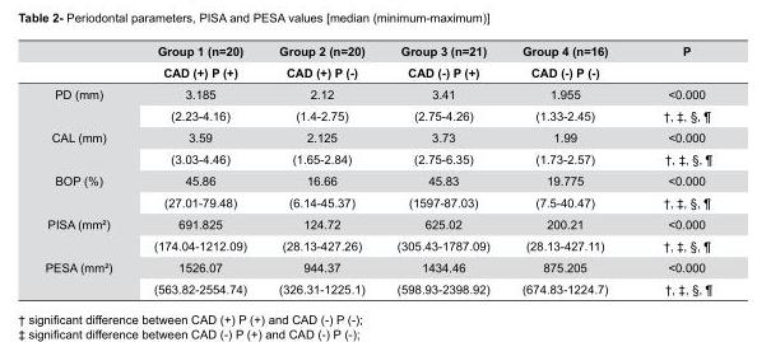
<table><thead><tr><td rowspan="2"></td><td rowspan="2">Group 1 (n=20) CAD (+) P (+)</td><td rowspan="2">Group 2 (n=20) CAD (+) P (-)</td><td rowspan="2">Group 3 (n=21) CAD (-) P (+)</td><td rowspan="2">Group 4 (n=16) CAD (-) P (-)</td><td rowspan="2">P</td></tr><tr></tr></thead><tbody><tr><td rowspan="2">PD (mm)</td><td>3.185</td><td>2.12</td><td>3.41</td><td>1.955</td><td>&lt;0.000</td></tr><tr><td>(2.23-4.16)</td><td>(1.4-2.75)</td><td>(2.75-4.26)</td><td>(1.33-2.45)</td><td>†, ‡, §, ¶</td></tr><tr><td rowspan="2">CAL (mm)</td><td>3.59</td><td>2.125</td><td>3.73</td><td>1.99</td><td>&lt;0.000</td></tr><tr><td>(3.03-4.46)</td><td>(1.65-2.84)</td><td>(2.75-6.35)</td><td>(1.73-2.57)</td><td>†, ‡, §, ¶</td></tr><tr><td rowspan="2">BOP (%)</td><td>45.86</td><td>16.66</td><td>45.83</td><td>19.775</td><td>&lt;0.000</td></tr><tr><td>(27.01-79.48)</td><td>(6.14-45.37)</td><td>(1597-87.03)</td><td>(7.5-40.47)</td><td>†, ‡, §, ¶</td></tr><tr><td rowspan="2">PISA (mm²)</td><td>691.825</td><td>124.72</td><td>625.02</td><td>200.21</td><td>&lt;0.000</td></tr><tr><td>(174.04-1212.09)</td><td>(28.13-427.26)</td><td>(305.43-1787.09)</td><td>(28.13-427.11)</td><td>†, ‡, §, ¶</td></tr><tr><td rowspan="2">PESA (mm²)</td><td>1526.07</td><td>944.37</td><td>1434.46</td><td>875.205</td><td>&lt;0.000</td></tr><tr><td>(563.82-2554.74)</td><td>(326.31-1225.1)</td><td>(598.93-2398.92)</td><td>(674.83-1224.7)</td><td>†, ‡, §, ¶</td></tr></tbody></table>